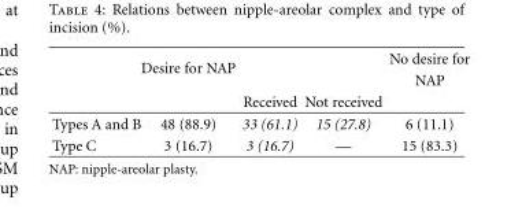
<table><thead><tr><td rowspan="3"></td><td rowspan="3">Desire for NAP</td><td rowspan="3">Received</td><td rowspan="3">Not received</td><td rowspan="3">No desire for NAP</td></tr><tr></tr><tr></tr></thead><tbody><tr><td>Types A and B</td><td>48 (88.9)</td><td>33 (61.1)</td><td>15 (27.8)</td><td>6 (11.1)</td></tr><tr><td>Type C</td><td>3 (16.7)</td><td>3 (16.7)</td><td>—</td><td>15 (83.3)</td></tr></tbody></table>